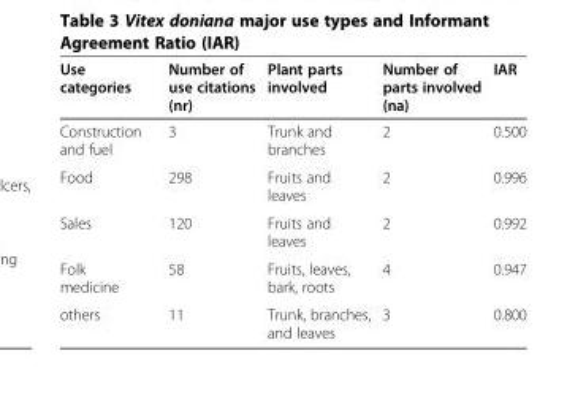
<table><thead><tr><td>Use categories</td><td>Number of use citations (nr)</td><td>Plant parts involved</td><td>Number of parts involved (na)</td><td>IAR</td></tr></thead><tbody><tr><td>Construction and fuel</td><td>3</td><td>Trunk and branches</td><td>2</td><td>0.500</td></tr><tr><td>Food</td><td>298</td><td>Fruits and leaves</td><td>2</td><td>0.996</td></tr><tr><td>Sales</td><td>120</td><td>Fruits and leaves</td><td>2</td><td>0.992</td></tr><tr><td>Folk medicine</td><td>58</td><td>Fruits, leaves, bark, roots</td><td>4</td><td>0.947</td></tr><tr><td>others</td><td>11</td><td>Trunk, branches, and leaves</td><td>3</td><td>0.800</td></tr></tbody></table>